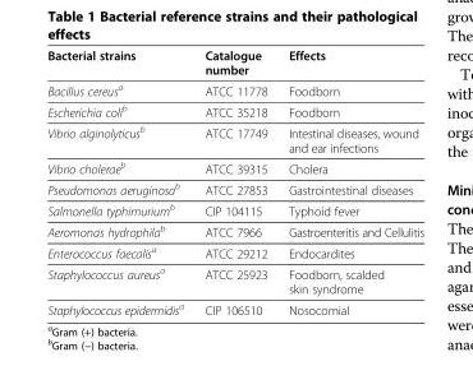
<table><thead><tr><td>Bacterial strains</td><td>Catalogue number</td><td>Effects</td></tr></thead><tbody><tr><td>Bacillus cereus<sup>a</sup></td><td>ATCC 11778</td><td>Foodborn</td></tr><tr><td>Escherichia coli<sup>b</sup></td><td>ATCC 35218</td><td>Foodborn</td></tr><tr><td>Vibrio alginolyticus<sup>b</sup></td><td>ATCC 17749</td><td>Intestinal diseases, wound and ear infections</td></tr><tr><td>Vibrio cholerae<sup>b</sup></td><td>ATCC 39315</td><td>Cholera</td></tr><tr><td>Pseudomonas aeruginosa<sup>b</sup></td><td>ATCC 27853</td><td>Gastrointestinal diseases</td></tr><tr><td>Salmonella typhimurium<sup>b</sup></td><td>CIP 104115</td><td>Typhoid fever</td></tr><tr><td>Aeromonas hydrophila<sup>b</sup></td><td>ATCC 7966</td><td>Gastroenteritis and Cellulitis</td></tr><tr><td>Enterococcus faecalis<sup>a</sup></td><td>ATCC 29212</td><td>Endocardites</td></tr><tr><td>Staphylococcus aureus<sup>a</sup></td><td>ATCC 25923</td><td>Foodborn, scalded skin syndrome</td></tr><tr><td>Staphylococcus epidermidis<sup>a</sup></td><td>CIP 106510</td><td>Nosocomial</td></tr></tbody></table>